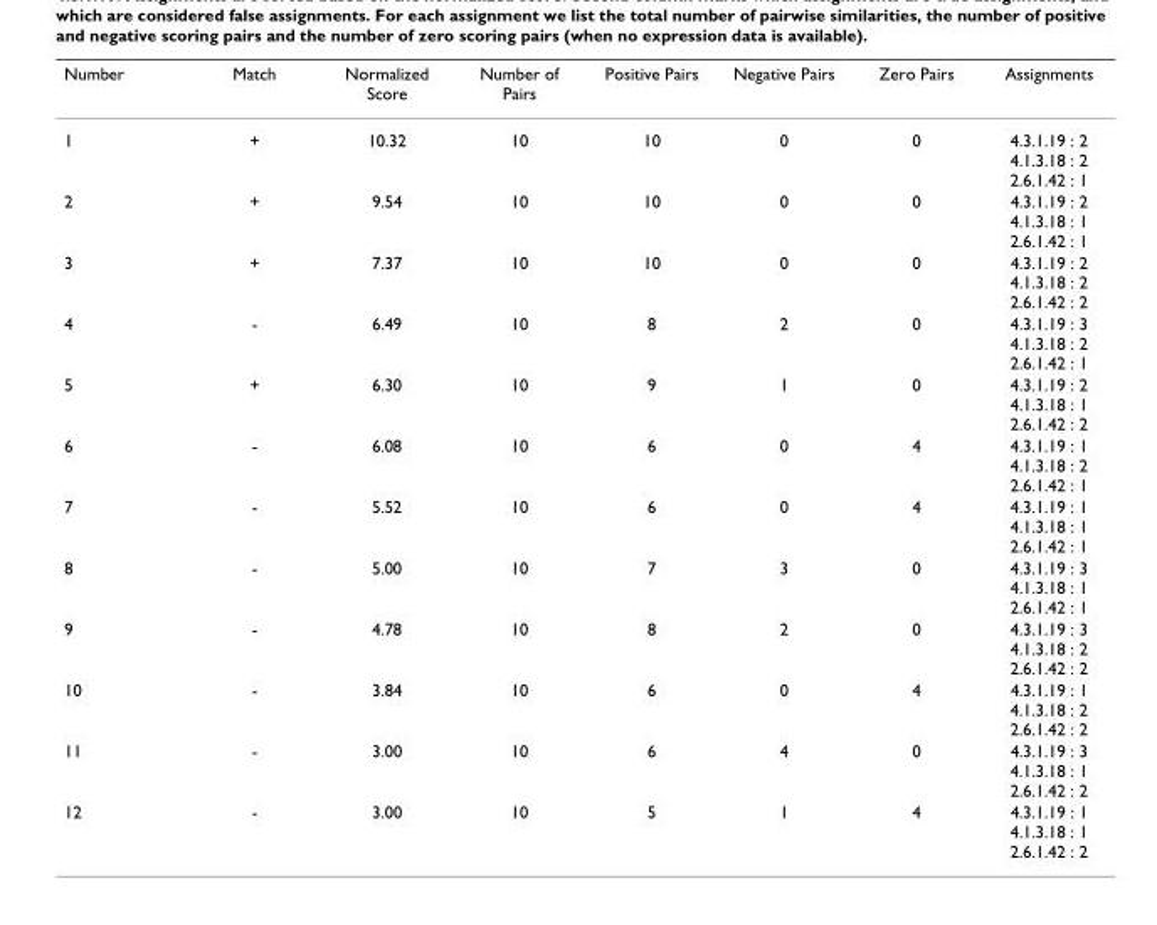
<table><thead><tr><td>Number</td><td>Match</td><td>Normalized Score</td><td>Number of Pairs</td><td>Positive Pairs</td><td>Negative Pairs</td><td>Zero Pairs</td><td>Assignments</td></tr></thead><tbody><tr><td>1</td><td>+</td><td>10.32</td><td>10</td><td>10</td><td>0</td><td>0</td><td>4.3.1.19 : 2 4.1.3.18 : 2 2.6.1.42 : 1</td></tr><tr><td>2</td><td>+</td><td>9.54</td><td>10</td><td>10</td><td>0</td><td>0</td><td>4.3.1.19 : 2 4.1.3.18 : 1 2.6.1.42 : 1</td></tr><tr><td>3</td><td>+</td><td>7.37</td><td>10</td><td>10</td><td>0</td><td>0</td><td>4.3.1.19 : 2 4.1.3.18 : 2 2.6.1.42 : 2</td></tr><tr><td>4</td><td>-</td><td>6.49</td><td>10</td><td>8</td><td>2</td><td>0</td><td>4.3.1.19 : 3 4.1.3.18 : 2 2.6.1.42 : 1</td></tr><tr><td>5</td><td>+</td><td>6.30</td><td>10</td><td>9</td><td>1</td><td>0</td><td>4.3.1.19 : 2 4.1.3.18 : 1 2.6.1.42 : 2</td></tr><tr><td>6</td><td>-</td><td>6.08</td><td>10</td><td>6</td><td>0</td><td>4</td><td>4.3.1.19 : 1 4.1.3.18 : 2 2.6.1.42 : 1</td></tr><tr><td>7</td><td>-</td><td>5.52</td><td>10</td><td>6</td><td>0</td><td>4</td><td>4.3.1.19 : 1 4.1.3.18 : 1 2.6.1.42 : 1</td></tr><tr><td>8</td><td>-</td><td>5.00</td><td>10</td><td>7</td><td>3</td><td>0</td><td>4.3.1.19 : 3 4.1.3.18 : 1 2.6.1.42 : 1</td></tr><tr><td>9</td><td>-</td><td>4.78</td><td>10</td><td>8</td><td>2</td><td>0</td><td>4.3.1.19 : 3 4.1.3.18 : 2 2.6.1.42 : 2</td></tr><tr><td>10</td><td>-</td><td>3.84</td><td>10</td><td>6</td><td>0</td><td>4</td><td>4.3.1.19 : 1 4.1.3.18 : 2 2.6.1.42 : 2</td></tr><tr><td>11</td><td>-</td><td>3.00</td><td>10</td><td>6</td><td>4</td><td>0</td><td>4.3.1.19 : 3 4.1.3.18 : 1 2.6.1.42 : 2</td></tr><tr><td>12</td><td>-</td><td>3.00</td><td>10</td><td>5</td><td>1</td><td>4</td><td>4.3.1.19 : 1 4.1.3.18 : 1 2.6.1.42 : 2</td></tr></tbody></table>